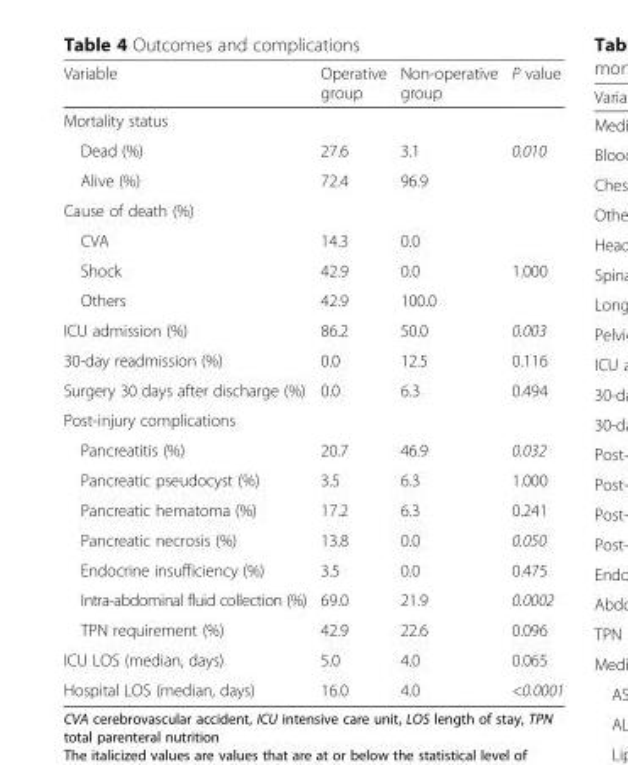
<table><thead><tr><td>Variable</td><td>Operative group</td><td>Non-operative group</td><td>P value</td></tr></thead><tbody><tr><td colspan="4">Mortality status</td></tr><tr><td>Dead (%)</td><td>27.6</td><td>3.1</td><td>0.010</td></tr><tr><td>Alive (%)</td><td>72.4</td><td>96.9</td><td></td></tr><tr><td colspan="4">Cause of death (%)</td></tr><tr><td>CVA</td><td>14.3</td><td>0.0</td><td></td></tr><tr><td>Shock</td><td>42.9</td><td>0.0</td><td>1.000</td></tr><tr><td>Others</td><td>42.9</td><td>100.0</td><td></td></tr><tr><td>ICU admission (%)</td><td>86.2</td><td>50.0</td><td>0.003</td></tr><tr><td>30-day readmission (%)</td><td>0.0</td><td>12.5</td><td>0.116</td></tr><tr><td>Surgery 30 days after discharge (%)</td><td>0.0</td><td>6.3</td><td>0.494</td></tr><tr><td colspan="4">Post-injury complications</td></tr><tr><td>Pancreatitis (%)</td><td>20.7</td><td>46.9</td><td>0.032</td></tr><tr><td>Pancreatic pseudocyst (%)</td><td>3.5</td><td>6.3</td><td>1.000</td></tr><tr><td>Pancreatic hematoma (%)</td><td>17.2</td><td>6.3</td><td>0.241</td></tr><tr><td>Pancreatic necrosis (%)</td><td>13.8</td><td>0.0</td><td>0.050</td></tr><tr><td>Endocrine insufficiency (%)</td><td>3.5</td><td>0.0</td><td>0.475</td></tr><tr><td>Intra-abdominal fluid collection (%)</td><td>69.0</td><td>21.9</td><td>0.0002</td></tr><tr><td>TPN requirement (%)</td><td>42.9</td><td>22.6</td><td>0.096</td></tr><tr><td>ICU LOS (median, days)</td><td>5.0</td><td>4.0</td><td>0.065</td></tr><tr><td>Hospital LOS (median, days)</td><td>16.0</td><td>4.0</td><td>&lt;0.0001</td></tr></tbody></table>